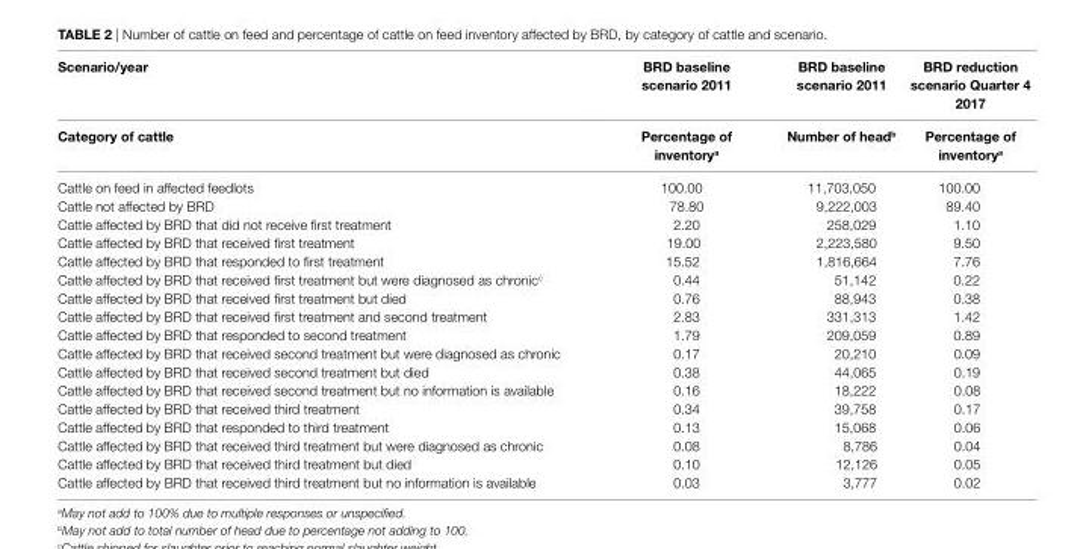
<table><thead><tr><td rowspan="2">scenario/year category of cattle</td><td rowspan="2">BrD baseline scenario 2011 Percentage of inventorya</td><td rowspan="2">BrD baseline scenario 2011 number of headb</td><td rowspan="2">BrD reduction scenario Quarter 4 2017 Percentage of inventorya</td></tr><tr></tr></thead><tbody><tr><td>Cattle on feed in affected feedlots</td><td>100.00</td><td>11,703,050</td><td>100.00</td></tr><tr><td>Cattle not affected by BRD</td><td>78.80</td><td>9,222,003</td><td>89.40</td></tr><tr><td>Cattle affected by BRD that did not receive first treatment</td><td>2.20</td><td>258,029</td><td>1.10</td></tr><tr><td>Cattle affected by BRD that received first treatment</td><td>19.00</td><td>2,223,580</td><td>9.50</td></tr><tr><td>Cattle affected by BRD that responded to first treatment</td><td>15.52</td><td>1,816,664</td><td>7.76</td></tr><tr><td>Cattle affected by BRD that received first treatment but were diagnosed as chronic<sup>c</sup></td><td>0.44</td><td>51,142</td><td>0.22</td></tr><tr><td>Cattle affected by BRD that received first treatment but died</td><td>0.76</td><td>88,943</td><td>0.38</td></tr><tr><td>Cattle affected by BRD that received first treatment and second treatment</td><td>2.83</td><td>331,313</td><td>1.42</td></tr><tr><td>Cattle affected by BRD that responded to second treatment</td><td>1.79</td><td>209,059</td><td>0.89</td></tr><tr><td>Cattle affected by BRD that received second treatment but were diagnosed as chronic</td><td>0.17</td><td>20,210</td><td>0.09</td></tr><tr><td>Cattle affected by BRD that received second treatment but died</td><td>0.38</td><td>44,065</td><td>0.19</td></tr><tr><td>Cattle affected by BRD that received second treatment but no information is available</td><td>0.16</td><td>18,222</td><td>0.08</td></tr><tr><td>Cattle affected by BRD that received third treatment</td><td>0.34</td><td>39,758</td><td>0.17</td></tr><tr><td>Cattle affected by BRD that responded to third treatment</td><td>0.13</td><td>15,068</td><td>0.06</td></tr><tr><td>Cattle affected by BRD that received third treatment but were diagnosed as chronic</td><td>0.08</td><td>8,786</td><td>0.04</td></tr><tr><td>Cattle affected by BRD that received third treatment but died</td><td>0.10</td><td>12,126</td><td>0.05</td></tr><tr><td>Cattle affected by BRD that received third treatment but no information is available</td><td>0.03</td><td>3,777</td><td>0.02</td></tr></tbody></table>